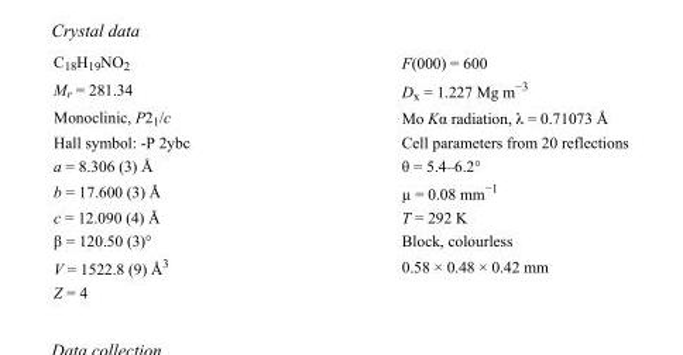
<table><tbody><tr><td>C<sub>18</sub>H<sub>19</sub>NO<sub>2</sub></td><td>F(000) = 600</td></tr><tr><td>M<sub>r</sub> = 281.34</td><td>D<sub>x</sub> = 1.227 Mg m<sup>−3</sup></td></tr><tr><td>Monoclinic, P2<sub>1</sub>/c</td><td>Mo Kα radiation, λ = 0.71073 Å</td></tr><tr><td>Hall symbol: -P 2ybc</td><td>Cell parameters from 20 reflections</td></tr><tr><td>a = 8.306 (3) Å</td><td>θ = 5.4–6.2°</td></tr><tr><td>b = 17.600 (3) Å</td><td>µ = 0.08 mm<sup>−1</sup></td></tr><tr><td>c = 12.090 (4) Å</td><td>T = 292 K</td></tr><tr><td>β = 120.50 (3)°</td><td>Block, colourless</td></tr><tr><td>V = 1522.8 (9) Å<sup>3</sup></td><td>0.58 × 0.48 × 0.42 mm</td></tr><tr><td>Z = 4</td><td></td></tr></tbody></table>